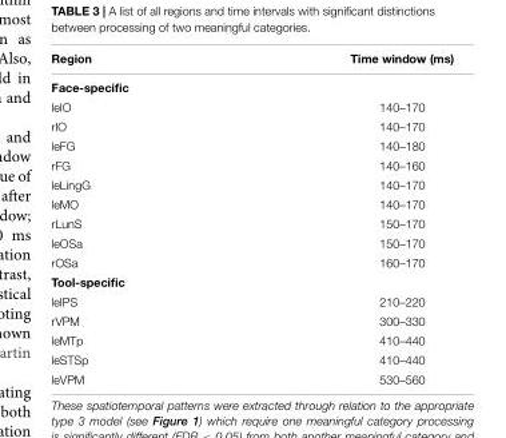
<table><thead><tr><td>Region</td><td>Time window (ms)</td></tr></thead><tbody><tr><td colspan="2">Face-specific</td></tr><tr><td>leIO</td><td>140–170</td></tr><tr><td>rIO</td><td>140–170</td></tr><tr><td>leFG</td><td>140–180</td></tr><tr><td>rFG</td><td>140–160</td></tr><tr><td>leLingG</td><td>140–170</td></tr><tr><td>leMO</td><td>140–170</td></tr><tr><td>rLunS</td><td>150–170</td></tr><tr><td>leOSa</td><td>150–170</td></tr><tr><td>rOSa</td><td>160–170</td></tr><tr><td colspan="2">Tool-specific</td></tr><tr><td>leIPS</td><td>210–220</td></tr><tr><td>rVPM</td><td>300–330</td></tr><tr><td>leMTp</td><td>410–440</td></tr><tr><td>leSTSp</td><td>410–440</td></tr><tr><td>leVPM</td><td>530–560</td></tr></tbody></table>